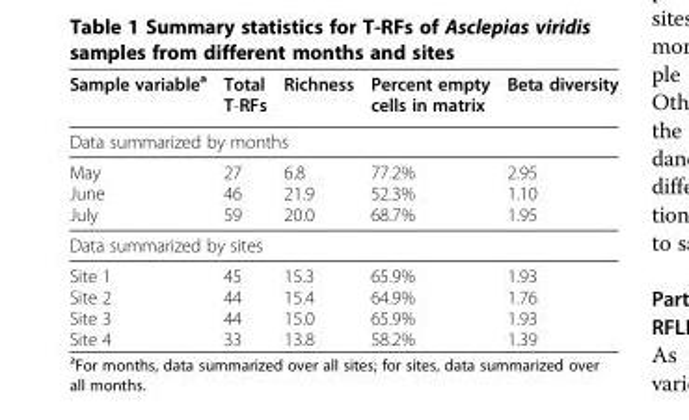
<table><thead><tr><td>Sample variable<sup>a</sup></td><td>Total T-RFs</td><td>Richness</td><td>Percent empty cells in matrix</td><td>Beta diversity</td></tr></thead><tbody><tr><td colspan="5">Data summarized by months</td></tr><tr><td>May</td><td>27</td><td>6.8</td><td>77.2%</td><td>2.95</td></tr><tr><td>June</td><td>46</td><td>21.9</td><td>52.3%</td><td>1.10</td></tr><tr><td>July</td><td>59</td><td>20.0</td><td>68.7%</td><td>1.95</td></tr><tr><td colspan="5">Data summarized by sites</td></tr><tr><td>Site 1</td><td>45</td><td>15.3</td><td>65.9%</td><td>1.93</td></tr><tr><td>Site 2</td><td>44</td><td>15.4</td><td>64.9%</td><td>1.76</td></tr><tr><td>Site 3</td><td>44</td><td>15.0</td><td>65.9%</td><td>1.93</td></tr><tr><td>Site 4</td><td>33</td><td>13.8</td><td>58.2%</td><td>1.39</td></tr></tbody></table>